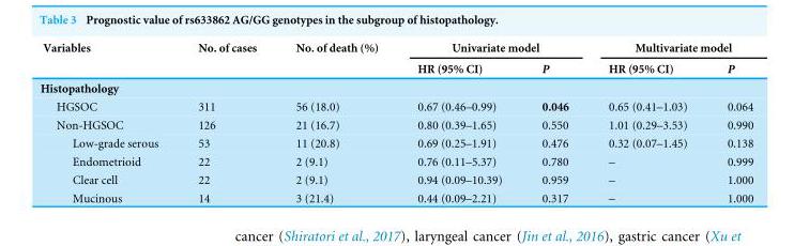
<table><thead><tr><td rowspan="2">Variables</td><td rowspan="2">No. of cases</td><td rowspan="2">No. of death (%)</td><td colspan="2">Univariate model</td><td colspan="2">Multivariate model</td></tr><tr><td>HR (95% CI)</td><td>P</td><td>HR (95% CI)</td><td>P</td></tr></thead><tbody><tr><td colspan="7">Histopathology</td></tr><tr><td>HGSOC</td><td>311</td><td>56 (18.0)</td><td>0.67 (0.46–0.99)</td><td>0.046</td><td>0.65 (0.41–1.03)</td><td>0.064</td></tr><tr><td>Non-HGSOC</td><td>126</td><td>21 (16.7)</td><td>0.80 (0.39–1.65)</td><td>0.550</td><td>1.01 (0.29–3.53)</td><td>0.990</td></tr><tr><td>Low-grade serous</td><td>53</td><td>11 (20.8)</td><td>0.69 (0.25–1.91)</td><td>0.476</td><td>0.32 (0.07–1.45)</td><td>0.138</td></tr><tr><td>Endometrioid</td><td>22</td><td>2 (9.1)</td><td>0.76 (0.11–5.37)</td><td>0.780</td><td>–</td><td>0.999</td></tr><tr><td>Clear cell</td><td>22</td><td>2 (9.1)</td><td>0.94 (0.09–10.39)</td><td>0.959</td><td>–</td><td>1.000</td></tr><tr><td>Mucinous</td><td>14</td><td>3 (21.4)</td><td>0.44 (0.09–2.21)</td><td>0.317</td><td>–</td><td>1.000</td></tr></tbody></table>